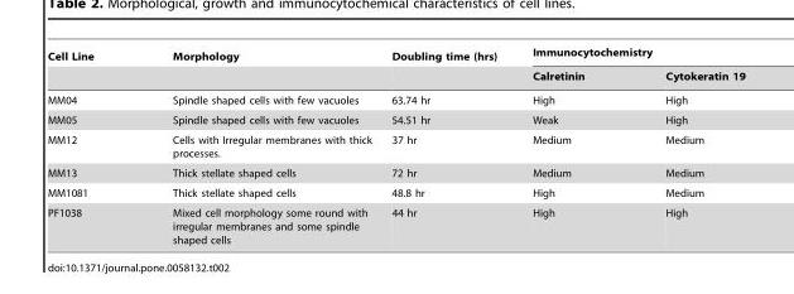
<table><thead><tr><td rowspan="2">Cell Line</td><td rowspan="2">Morphology</td><td rowspan="2">Doubling time (hrs)</td><td colspan="2">Immunocytochemistry</td></tr><tr><td>Calretinin</td><td>Cytokeratin 19</td></tr></thead><tbody><tr><td>MM04</td><td>Spindle shaped cells with few vacuoles</td><td>63.74 hr</td><td>High</td><td>High</td></tr><tr><td>MM05</td><td>Spindle shaped cells with few vacuoles</td><td>54.51 hr</td><td>Weak</td><td>High</td></tr><tr><td>MM12</td><td>Cells with Irregular membranes with thick processes.</td><td>37 hr</td><td>Medium</td><td>Medium</td></tr><tr><td>MM13</td><td>Thick stellate shaped cells</td><td>72 hr</td><td>Medium</td><td>Medium</td></tr><tr><td>MM1081</td><td>Thick stellate shaped cells</td><td>48.8 hr</td><td>High</td><td>Medium</td></tr><tr><td>PF1038</td><td>Mixed cell morphology some round with irregular membranes and some spindle shaped cells</td><td>44 hr</td><td>High</td><td>High</td></tr></tbody></table>